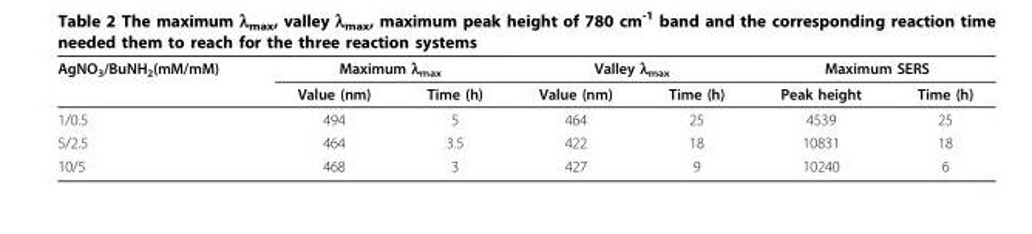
<table><thead><tr><td rowspan="2">AgNO<sub>3</sub>/BuNH<sub>2</sub>(mM/mM)</td><td colspan="2">Maximum λ<sub>max</sub></td><td colspan="2">Valley λ<sub>max</sub></td><td colspan="2">Maximum SERS</td></tr><tr><td>Value (nm)</td><td>Time (h)</td><td>Value (nm)</td><td>Time (h)</td><td>Peak height</td><td>Time (h)</td></tr></thead><tbody><tr><td>1/0.5</td><td>494</td><td>5</td><td>464</td><td>25</td><td>4539</td><td>25</td></tr><tr><td>5/2.5</td><td>464</td><td>3.5</td><td>422</td><td>18</td><td>10831</td><td>18</td></tr><tr><td>10/5</td><td>468</td><td>3</td><td>427</td><td>9</td><td>10240</td><td>6</td></tr></tbody></table>